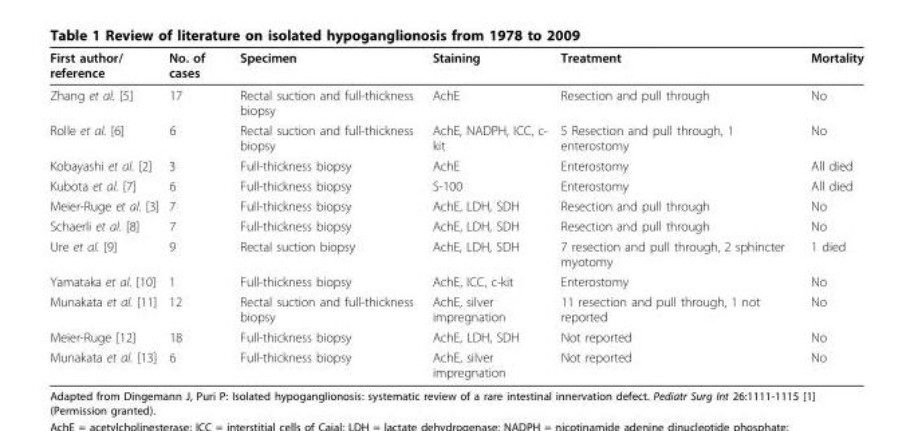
<table><thead><tr><td>First author/ reference</td><td>No. of cases</td><td>Specimen</td><td>Staining</td><td>Treatment</td><td>Mortality</td></tr></thead><tbody><tr><td>Zhang et al. [5]</td><td>17</td><td>Rectal suction and full-thickness biopsy</td><td>AchE</td><td>Resection and pull through</td><td>No</td></tr><tr><td>Rolle et al. [6]</td><td>6</td><td>Rectal suction and full-thickness biopsy</td><td>AchE, NADPH, ICC, c- kit</td><td>5 Resection and pull through, 1 enterostomy</td><td>No</td></tr><tr><td>Kobayashi et al. [2]</td><td>3</td><td>Full-thickness biopsy</td><td>AchE</td><td>Enterostomy</td><td>All died</td></tr><tr><td>Kubota et al. [7]</td><td>6</td><td>Full-thickness biopsy</td><td>S-100</td><td>Enterostomy</td><td>All died</td></tr><tr><td>Meier-Ruge et al. [3]</td><td>7</td><td>Full-thickness biopsy</td><td>AchE, LDH, SDH</td><td>Resection and pull through</td><td>No</td></tr><tr><td>Schaerli et al. [8]</td><td>7</td><td>Full-thickness biopsy</td><td>AchE, LDH, SDH</td><td>Resection and pull through</td><td>No</td></tr><tr><td>Ure et al. [9]</td><td>9</td><td>Rectal suction biopsy</td><td>AchE, LDH, SDH</td><td>7 resection and pull through, 2 sphincter myotomy</td><td>1 died</td></tr><tr><td>Yamataka et al. [10]</td><td>1</td><td>Full-thickness biopsy</td><td>AchE, ICC, c-kit</td><td>Enterostomy</td><td>No</td></tr><tr><td>Munakata et al. [11]</td><td>12</td><td>Rectal suction and full-thickness biopsy</td><td>AchE, silver impregnation</td><td>11 resection and pull through, 1 not reported</td><td>No</td></tr><tr><td>Meier-Ruge [12]</td><td>18</td><td>Full-thickness biopsy</td><td>AchE, LDH, SDH</td><td>Not reported</td><td>No</td></tr><tr><td>Munakata et al. [13]</td><td>6</td><td>Full-thickness biopsy</td><td>AchE, silver impregnation</td><td>Not reported</td><td>No</td></tr></tbody></table>